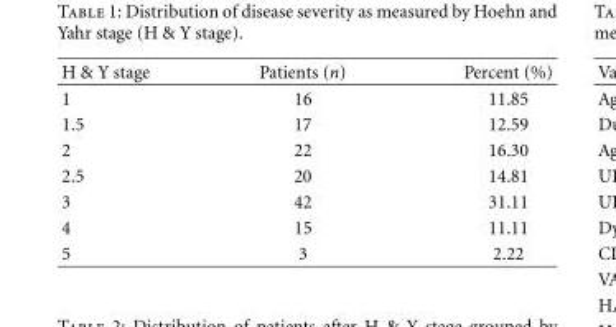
<table><thead><tr><td>H &amp; Y stage</td><td>Patients (n)</td><td>Percent (%)</td></tr></thead><tbody><tr><td>1</td><td>16</td><td>11.85</td></tr><tr><td>1.5</td><td>17</td><td>12.59</td></tr><tr><td>2</td><td>22</td><td>16.30</td></tr><tr><td>2.5</td><td>20</td><td>14.81</td></tr><tr><td>3</td><td>42</td><td>31.11</td></tr><tr><td>4</td><td>15</td><td>11.11</td></tr><tr><td>5</td><td>3</td><td>2.22</td></tr></tbody></table>